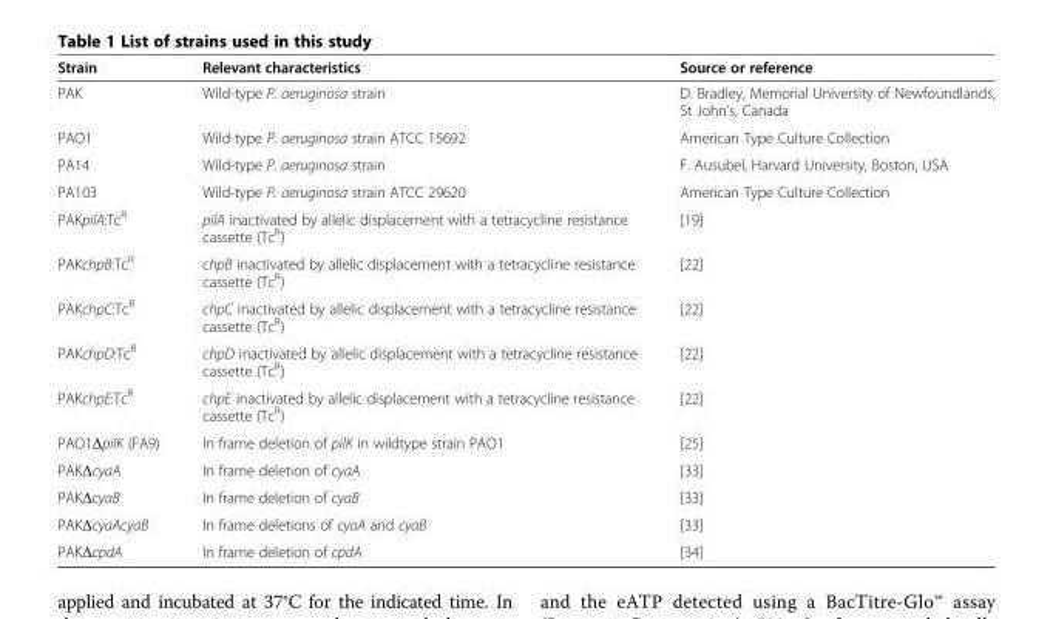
<table><thead><tr><td>Strain</td><td>Relevant characteristics</td><td>Source or reference</td></tr></thead><tbody><tr><td>PAK</td><td>Wild-type P. aeruginosa strain</td><td>D. Bradley, Memorial University of Newfoundlands, St John’s, Canada</td></tr><tr><td>PAO1</td><td>Wild-type P. aeruginosa strain ATCC 15692</td><td>American Type Culture Collection</td></tr><tr><td>PA14</td><td>Wild-type P. aeruginosa strain</td><td>F. Ausubel, Harvard University, Boston, USA</td></tr><tr><td>PA103</td><td>Wild-type P. aeruginosa strain ATCC 29620</td><td>American Type Culture Collection</td></tr><tr><td>PAKpilA:Tc<sup>R</sup></td><td>pilA inactivated by allelic displacement with a tetracycline resistance cassette (Tc<sup>R</sup>)</td><td>[19]</td></tr><tr><td>PAKchpB:Tc<sup>R</sup></td><td>chpB inactivated by allelic displacement with a tetracycline resistance cassette (Tc<sup>R</sup>)</td><td>[22]</td></tr><tr><td>PAKchpC:Tc<sup>R</sup></td><td>chpC inactivated by allelic displacement with a tetracycline resistance cassette (Tc<sup>R</sup>)</td><td>[22]</td></tr><tr><td>PAKchpD:Tc<sup>R</sup></td><td>chpD inactivated by allelic displacement with a tetracycline resistance cassette (Tc<sup>R</sup>)</td><td>[22]</td></tr><tr><td>PAKchpE:Tc<sup>R</sup></td><td>chpE inactivated by allelic displacement with a tetracycline resistance cassette (Tc<sup>R</sup>)</td><td>[22]</td></tr><tr><td>PAO1ΔpilK (FA9)</td><td>In frame deletion of pilK in wildtype strain PAO1</td><td>[25]</td></tr><tr><td>PAKΔcyaA</td><td>In frame deletion of cyaA</td><td>[33]</td></tr><tr><td>PAKΔcyaB</td><td>In frame deletion of cyaB</td><td>[33]</td></tr><tr><td>PAKΔcyaAcyaB</td><td>In frame deletions of cyaA and cyaB</td><td>[33]</td></tr><tr><td>PAKΔcpdA</td><td>In frame deletion of cpdA</td><td>[34]</td></tr></tbody></table>